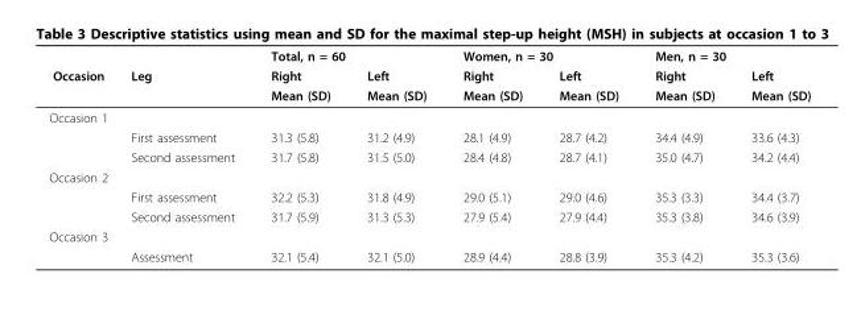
<table><thead><tr><td rowspan="3">Occasion</td><td rowspan="3">Leg</td><td colspan="2">Total, n = 60</td><td colspan="2">Women, n = 30</td><td colspan="2">Men, n = 30</td></tr><tr><td rowspan="2">Right Mean (SD)</td><td rowspan="2">Left Mean (SD)</td><td rowspan="2">Right Mean (SD)</td><td rowspan="2">Left Mean (SD)</td><td rowspan="2">Right Mean (SD)</td><td rowspan="2">Left Mean (SD)</td></tr><tr></tr></thead><tbody><tr><td colspan="8">Occasion 1</td></tr><tr><td></td><td>First assessment</td><td>31.3 (5.8)</td><td>31.2 (4.9)</td><td>28.1 (4.9)</td><td>28.7 (4.2)</td><td>34.4 (4.9)</td><td>33.6 (4.3)</td></tr><tr><td></td><td>Second assessment</td><td>31.7 (5.8)</td><td>31.5 (5.0)</td><td>28.4 (4.8)</td><td>28.7 (4.1)</td><td>35.0 (4.7)</td><td>34.2 (4.4)</td></tr><tr><td colspan="8">Occasion 2</td></tr><tr><td></td><td>First assessment</td><td>32.2 (5.3)</td><td>31.8 (4.9)</td><td>29.0 (5.1)</td><td>29.0 (4.6)</td><td>35.3 (3.3)</td><td>34.4 (3.7)</td></tr><tr><td></td><td>Second assessment</td><td>31.7 (5.9)</td><td>31.3 (5.3)</td><td>27.9 (5.4)</td><td>27.9 (4.4)</td><td>35.3 (3.8)</td><td>34.6 (3.9)</td></tr><tr><td colspan="8">Occasion 3</td></tr><tr><td></td><td>Assessment</td><td>32.1 (5.4)</td><td>32.1 (5.0)</td><td>28.9 (4.4)</td><td>28.8 (3.9)</td><td>35.3 (4.2)</td><td>35.3 (3.6)</td></tr></tbody></table>